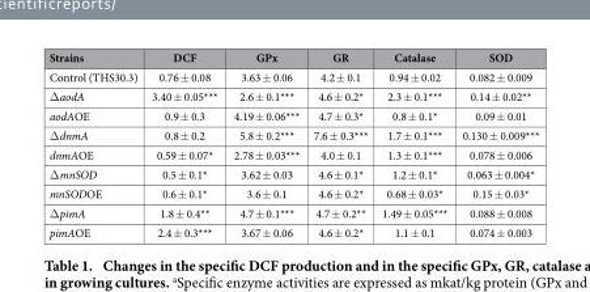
<table><thead><tr><td>Strains</td><td>DCF</td><td>GPx</td><td>GR</td><td>Catalase</td><td>SOD</td></tr></thead><tbody><tr><td>Control (THS30.3)</td><td>0.76 ± 0.08</td><td>3.63 ± 0.06</td><td>4.2 ± 0.1</td><td>0.94 ± 0.02</td><td>0.082 ± 0.009</td></tr><tr><td>Δ aodA</td><td>3.40 ± 0.05***</td><td>2.6 ± 0.1***</td><td>4.6 ± 0.2*</td><td>2.3 ± 0.1***</td><td>0.14 ± 0.02**</td></tr><tr><td>aodAOE</td><td>0.9 ± 0.3</td><td>4.19 ± 0.06***</td><td>4.7 ± 0.3*</td><td>0.8 ± 0.1*</td><td>0.09 ± 0.01</td></tr><tr><td>Δ dnmA</td><td>0.8 ± 0.2</td><td>5.8 ± 0.2***</td><td>7.6 ± 0.3***</td><td>1.7 ± 0.1***</td><td>0.130 ± 0.009***</td></tr><tr><td>dnmAOE</td><td>0.59 ± 0.07*</td><td>2.78 ± 0.03***</td><td>4.0 ± 0.1</td><td>1.3 ± 0.1***</td><td>0.078 ± 0.006</td></tr><tr><td>Δ mnSOD</td><td>0.5 ± 0.1*</td><td>3.62 ± 0.03</td><td>4.6 ± 0.1*</td><td>1.2 ± 0.1*</td><td>0.063 ± 0.004*</td></tr><tr><td>mnSODOE</td><td>0.6 ± 0.1*</td><td>3.6 ± 0.1</td><td>4.6 ± 0.2*</td><td>0.68 ± 0.03*</td><td>0.15 ± 0.03*</td></tr><tr><td>Δ pimA</td><td>1.8 ± 0.4**</td><td>4.7 ± 0.1***</td><td>4.7 ± 0.2**</td><td>1.49 ± 0.05***</td><td>0.088 ± 0.008</td></tr><tr><td>pimAOE</td><td>2.4 ± 0.3***</td><td>3.67 ± 0.06</td><td>4.6 ± 0.2*</td><td>1.1 ± 0.1</td><td>0.074 ± 0.003</td></tr></tbody></table>